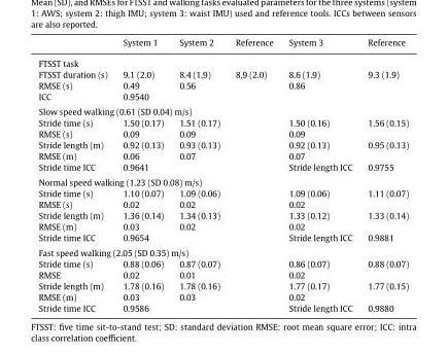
<table><thead><tr><td></td><td>System 1</td><td>System 2</td><td>Reference</td><td>System 3</td><td>Reference</td></tr></thead><tbody><tr><td colspan="6">FTSST task</td></tr><tr><td>FTSST duration (s)</td><td>9.1 (2.0)</td><td>8.4 (1.9)</td><td>8.9 (2.0)</td><td>8.6 (1.9)</td><td>9.3 (1.9)</td></tr><tr><td>RMSE (s)</td><td>0.49</td><td>0.56</td><td></td><td>0.86</td><td></td></tr><tr><td>ICC</td><td>0.9540</td><td></td><td></td><td></td><td></td></tr><tr><td colspan="6">Slow speed walking (0.61 (SD 0.04) m/s)</td></tr><tr><td>Stride time (s)</td><td>1.50 (0.17)</td><td>1.51 (0.17)</td><td></td><td>1.50 (0.16)</td><td>1.56 (0.15)</td></tr><tr><td>RMSE (s)</td><td>0.09</td><td>0.09</td><td></td><td>0.09</td><td></td></tr><tr><td>Stride length (m)</td><td>0.92 (0.13)</td><td>0.93 (0.13)</td><td></td><td>0.92 (0.13)</td><td>0.95 (0.13)</td></tr><tr><td>RMSE (m)</td><td>0.06</td><td>0.07</td><td></td><td>0.07</td><td></td></tr><tr><td>Stride time ICC</td><td>0.9641</td><td></td><td></td><td>Stride length ICC</td><td>0.9755</td></tr><tr><td colspan="6">Normal speed walking (1.23 (SD 0.08) m/s)</td></tr><tr><td>Stride time (s)</td><td>1.10 (0.07)</td><td>1.09 (0.06)</td><td></td><td>1.09 (0.06)</td><td>1.11 (0.07)</td></tr><tr><td>RMSE (s)</td><td>0.02</td><td>0.02</td><td></td><td>0.02</td><td></td></tr><tr><td>Stride length (m)</td><td>1.36 (0.14)</td><td>1.34 (0.13)</td><td></td><td>1.33 (0.12)</td><td>1.33 (0.14)</td></tr><tr><td>RMSE (m)</td><td>0.03</td><td>0.02</td><td></td><td>0.02</td><td></td></tr><tr><td>Stride time ICC</td><td>0.9654</td><td></td><td></td><td>Stride length ICC</td><td>0.9881</td></tr><tr><td colspan="6">Fast speed walking (2.05 (SD 0.35) m/s)</td></tr><tr><td>Stride time (s)</td><td>0.88 (0.06)</td><td>0.87 (0.07)</td><td></td><td>0.86 (0.07)</td><td>0.88 (0.07)</td></tr><tr><td>RMSE</td><td>0.02</td><td>0.01</td><td></td><td>0.02</td><td></td></tr><tr><td>Stride length (m)</td><td>1.78 (0.16)</td><td>1.78 (0.16)</td><td></td><td>1.77 (0.17)</td><td>1.77 (0.15)</td></tr><tr><td>RMSE (m)</td><td>0.03</td><td>0.03</td><td></td><td>0.02</td><td></td></tr><tr><td>Stride time ICC</td><td>0.9586</td><td></td><td></td><td>Stride length ICC</td><td>0.9880</td></tr></tbody></table>